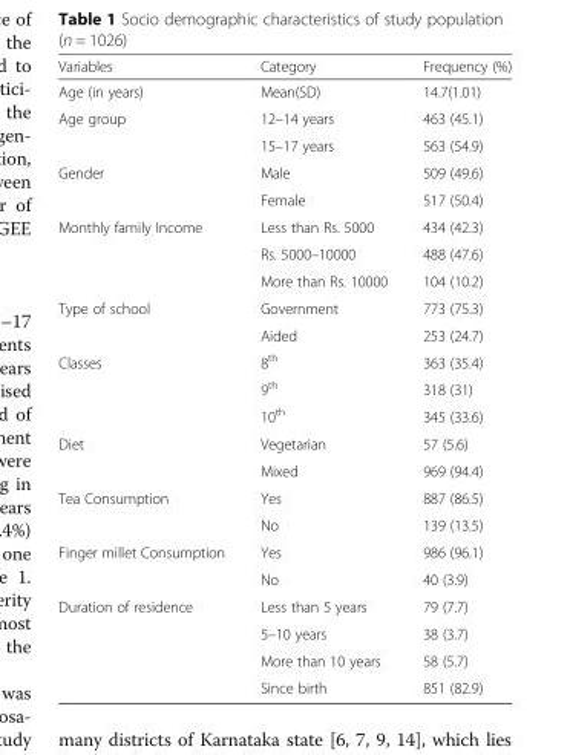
<table><thead><tr><td>Variables</td><td>Category</td><td>Frequency (%)</td></tr></thead><tbody><tr><td>Age (in years)</td><td>Mean(SD)</td><td>14.7(1.01)</td></tr><tr><td rowspan="2">Age group</td><td>12–14 years</td><td>463 (45.1)</td></tr><tr><td>15–17 years</td><td>563 (54.9)</td></tr><tr><td rowspan="2">Gender</td><td>Male</td><td>509 (49.6)</td></tr><tr><td>Female</td><td>517 (50.4)</td></tr><tr><td rowspan="3">Monthly family Income</td><td>Less than Rs. 5000</td><td>434 (42.3)</td></tr><tr><td>Rs. 5000–10000</td><td>488 (47.6)</td></tr><tr><td>More than Rs. 10000</td><td>104 (10.2)</td></tr><tr><td rowspan="2">Type of school</td><td>Government</td><td>773 (75.3)</td></tr><tr><td>Aided</td><td>253 (24.7)</td></tr><tr><td rowspan="3">Classes</td><td>8<sup>th</sup></td><td>363 (35.4)</td></tr><tr><td>9<sup>th</sup></td><td>318 (31)</td></tr><tr><td>10<sup>th</sup></td><td>345 (33.6)</td></tr><tr><td rowspan="2">Diet</td><td>Vegetarian</td><td>57 (5.6)</td></tr><tr><td>Mixed</td><td>969 (94.4)</td></tr><tr><td rowspan="2">Tea Consumption</td><td>Yes</td><td>887 (86.5)</td></tr><tr><td>No</td><td>139 (13.5)</td></tr><tr><td rowspan="2">Finger millet Consumption</td><td>Yes</td><td>986 (96.1)</td></tr><tr><td>No</td><td>40 (3.9)</td></tr><tr><td rowspan="4">Duration of residence</td><td>Less than 5 years</td><td>79 (7.7)</td></tr><tr><td>5–10 years</td><td>38 (3.7)</td></tr><tr><td>More than 10 years</td><td>58 (5.7)</td></tr><tr><td>Since birth</td><td>851 (82.9)</td></tr></tbody></table>